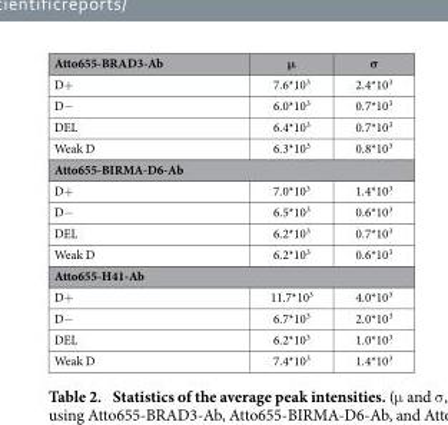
<table><thead><tr><td>Atto655-BRAD3-Ab</td><td>μ</td><td>σ</td></tr></thead><tbody><tr><td>D+</td><td>7.6*10<sup>3</sup></td><td>2.4*10<sup>3</sup></td></tr><tr><td>D−</td><td>6.0*10<sup>3</sup></td><td>0.7*10<sup>3</sup></td></tr><tr><td>DEL</td><td>6.4*10<sup>3</sup></td><td>0.7*10<sup>3</sup></td></tr><tr><td>Weak D</td><td>6.3*10<sup>3</sup></td><td>0.8*10<sup>3</sup></td></tr><tr><td colspan="3">Atto655-BIRMA-D6-Ab</td></tr><tr><td>D+</td><td>7.0*10<sup>3</sup></td><td>1.4*10<sup>3</sup></td></tr><tr><td>D−</td><td>6.5*10<sup>3</sup></td><td>0.6*10<sup>3</sup></td></tr><tr><td>DEL</td><td>6.2*10<sup>3</sup></td><td>0.7*10<sup>3</sup></td></tr><tr><td>Weak D</td><td>6.2*10<sup>3</sup></td><td>0.6*10<sup>3</sup></td></tr><tr><td colspan="3">Atto655-H41-Ab</td></tr><tr><td>D+</td><td>11.7*10<sup>3</sup></td><td>4.0*10<sup>3</sup></td></tr><tr><td>D−</td><td>6.7*10<sup>3</sup></td><td>2.0*10<sup>3</sup></td></tr><tr><td>DEL</td><td>6.2*10<sup>3</sup></td><td>1.0*10<sup>3</sup></td></tr><tr><td>Weak D</td><td>7.4*10<sup>3</sup></td><td>1.4*10<sup>3</sup></td></tr></tbody></table>